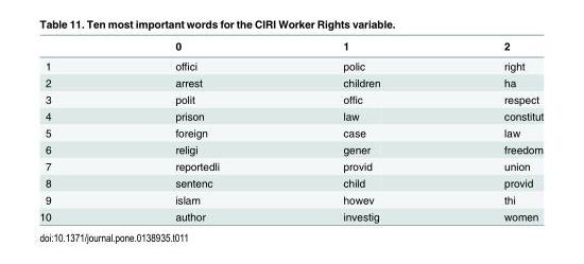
<table><thead><tr><td></td><td>0</td><td>1</td><td>2</td></tr></thead><tbody><tr><td>1</td><td>offici</td><td>polic</td><td>right</td></tr><tr><td>2</td><td>arrest</td><td>children</td><td>ha</td></tr><tr><td>3</td><td>polit</td><td>offic</td><td>respect</td></tr><tr><td>4</td><td>prison</td><td>law</td><td>constitut</td></tr><tr><td>5</td><td>foreign</td><td>case</td><td>law</td></tr><tr><td>6</td><td>religi</td><td>gener</td><td>freedom</td></tr><tr><td>7</td><td>reportedli</td><td>provid</td><td>union</td></tr><tr><td>8</td><td>sentenc</td><td>child</td><td>provid</td></tr><tr><td>9</td><td>islam</td><td>howev</td><td>thi</td></tr><tr><td>10</td><td>author</td><td>investig</td><td>women</td></tr></tbody></table>